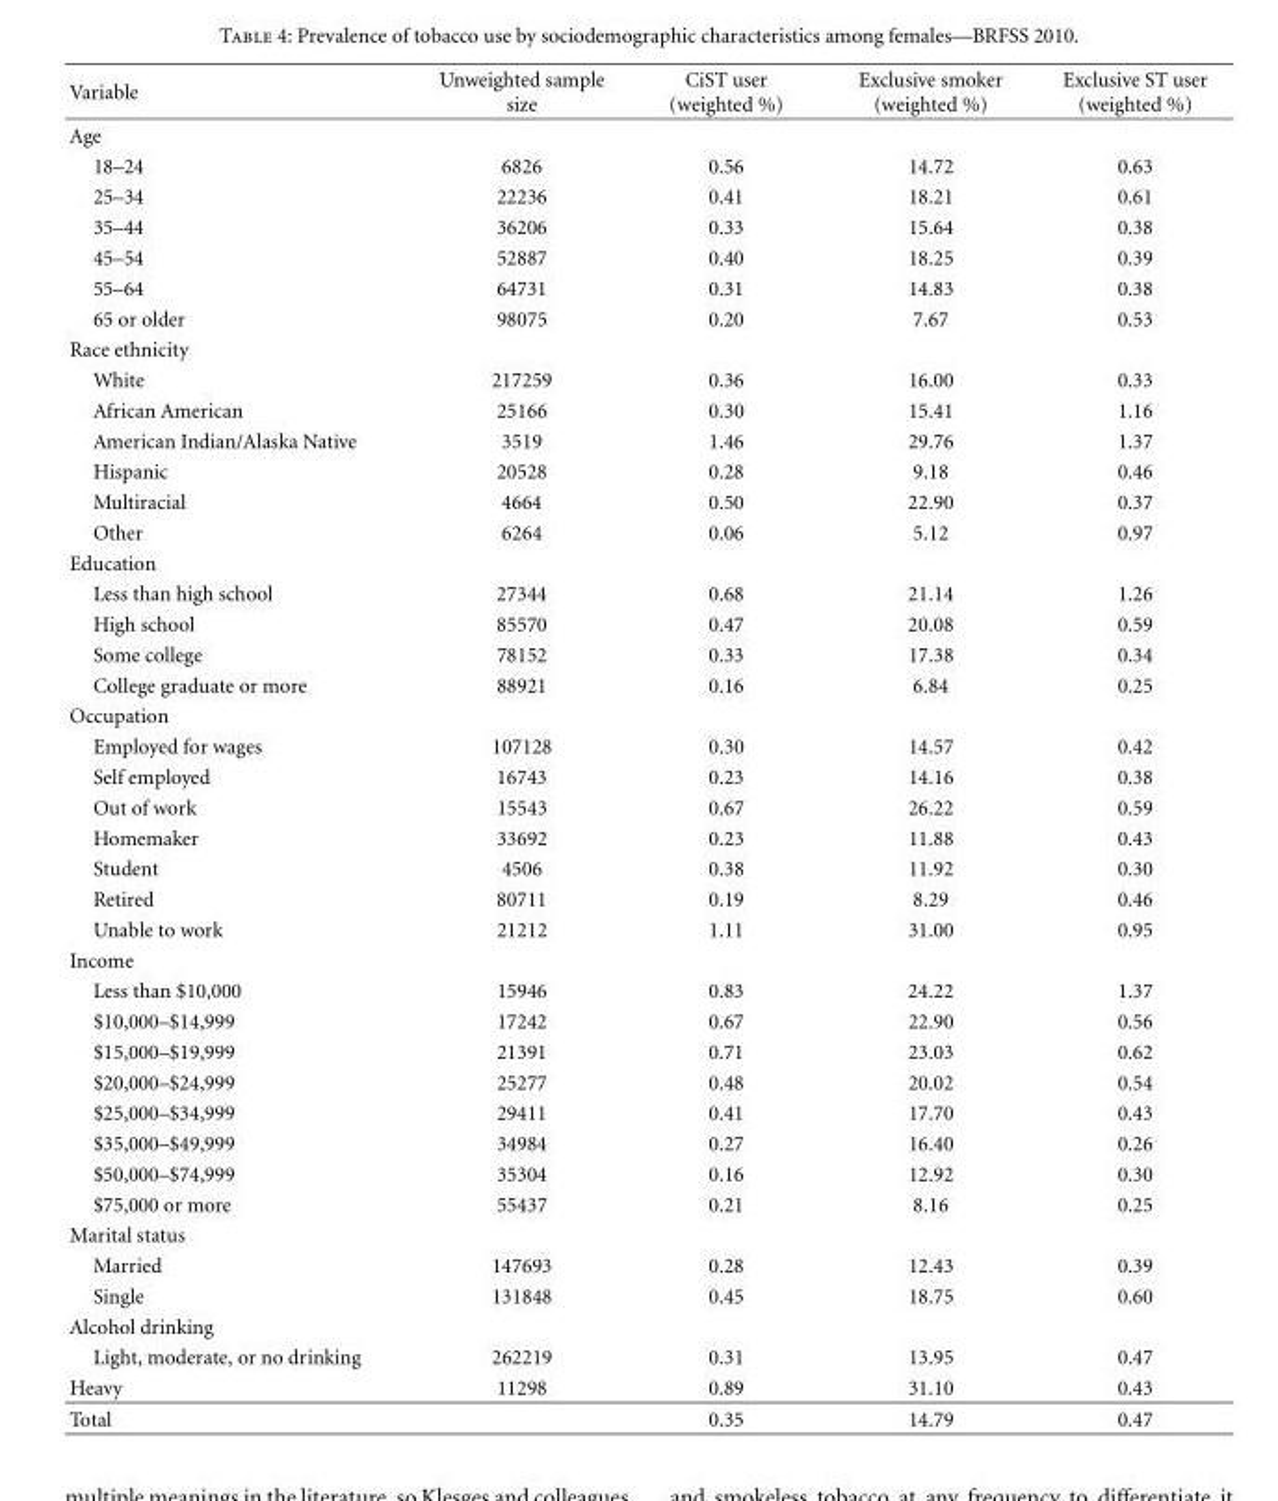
<table><thead><tr><td>Variable</td><td>Unweighted sample size</td><td>CiST user (weighted %)</td><td>Exclusive smoker (weighted %)</td><td>Exclusive ST user (weighted %)</td></tr></thead><tbody><tr><td colspan="5">Age</td></tr><tr><td>18–24</td><td>6826</td><td>0.56</td><td>14.72</td><td>0.63</td></tr><tr><td>25–34</td><td>22236</td><td>0.41</td><td>18.21</td><td>0.61</td></tr><tr><td>35–44</td><td>36206</td><td>0.33</td><td>15.64</td><td>0.38</td></tr><tr><td>45–54</td><td>52887</td><td>0.40</td><td>18.25</td><td>0.39</td></tr><tr><td>55–64</td><td>64731</td><td>0.31</td><td>14.83</td><td>0.38</td></tr><tr><td>65 or older</td><td>98075</td><td>0.20</td><td>7.67</td><td>0.53</td></tr><tr><td colspan="5">Race ethnicity</td></tr><tr><td>White</td><td>217259</td><td>0.36</td><td>16.00</td><td>0.33</td></tr><tr><td>African American</td><td>25166</td><td>0.30</td><td>15.41</td><td>1.16</td></tr><tr><td>American Indian/Alaska Native</td><td>3519</td><td>1.46</td><td>29.76</td><td>1.37</td></tr><tr><td>Hispanic</td><td>20528</td><td>0.28</td><td>9.18</td><td>0.46</td></tr><tr><td>Multiracial</td><td>4664</td><td>0.50</td><td>22.90</td><td>0.37</td></tr><tr><td>Other</td><td>6264</td><td>0.06</td><td>5.12</td><td>0.97</td></tr><tr><td colspan="5">Education</td></tr><tr><td>Less than high school</td><td>27344</td><td>0.68</td><td>21.14</td><td>1.26</td></tr><tr><td>High school</td><td>85570</td><td>0.47</td><td>20.08</td><td>0.59</td></tr><tr><td>Some college</td><td>78152</td><td>0.33</td><td>17.38</td><td>0.34</td></tr><tr><td>College graduate or more</td><td>88921</td><td>0.16</td><td>6.84</td><td>0.25</td></tr><tr><td colspan="5">Occupation</td></tr><tr><td>Employed for wages</td><td>107128</td><td>0.30</td><td>14.57</td><td>0.42</td></tr><tr><td>Self employed</td><td>16743</td><td>0.23</td><td>14.16</td><td>0.38</td></tr><tr><td>Out of work</td><td>15543</td><td>0.67</td><td>26.22</td><td>0.59</td></tr><tr><td>Homemaker</td><td>33692</td><td>0.23</td><td>11.88</td><td>0.43</td></tr><tr><td>Student</td><td>4506</td><td>0.38</td><td>11.92</td><td>0.30</td></tr><tr><td>Retired</td><td>80711</td><td>0.19</td><td>8.29</td><td>0.46</td></tr><tr><td>Unable to work</td><td>21212</td><td>1.11</td><td>31.00</td><td>0.95</td></tr><tr><td colspan="5">Income</td></tr><tr><td>Less than $10,000</td><td>15946</td><td>0.83</td><td>24.22</td><td>1.37</td></tr><tr><td>$10,000–$14,999</td><td>17242</td><td>0.67</td><td>22.90</td><td>0.56</td></tr><tr><td>$15,000–$19,999</td><td>21391</td><td>0.71</td><td>23.03</td><td>0.62</td></tr><tr><td>$20,000–$24,999</td><td>25277</td><td>0.48</td><td>20.02</td><td>0.54</td></tr><tr><td>$25,000–$34,999</td><td>29411</td><td>0.41</td><td>17.70</td><td>0.43</td></tr><tr><td>$35,000–$49,999</td><td>34984</td><td>0.27</td><td>16.40</td><td>0.26</td></tr><tr><td>$50,000–$74,999</td><td>35304</td><td>0.16</td><td>12.92</td><td>0.30</td></tr><tr><td>$75,000 or more</td><td>55437</td><td>0.21</td><td>8.16</td><td>0.25</td></tr><tr><td colspan="5">Marital status</td></tr><tr><td>Married</td><td>147693</td><td>0.28</td><td>12.43</td><td>0.39</td></tr><tr><td>Single</td><td>131848</td><td>0.45</td><td>18.75</td><td>0.60</td></tr><tr><td colspan="5">Alcohol drinking</td></tr><tr><td>Light, moderate, or no drinking</td><td>262219</td><td>0.31</td><td>13.95</td><td>0.47</td></tr><tr><td>Heavy</td><td>11298</td><td>0.89</td><td>31.10</td><td>0.43</td></tr><tr><td>Total</td><td></td><td>0.35</td><td>14.79</td><td>0.47</td></tr></tbody></table>